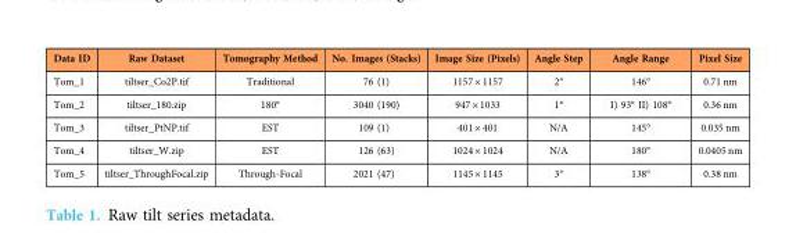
<table><thead><tr><td>Data ID</td><td>Raw Dataset</td><td>Tomography Method</td><td>No. Images (Stacks)</td><td>Image Size (Pixels)</td><td>Angle Step</td><td>Angle Range</td><td>Pixel Size</td></tr></thead><tbody><tr><td>Tom_1</td><td>tiltser_Co2P.tif</td><td>Traditional</td><td>76 (1)</td><td>1157 × 1157</td><td>2°</td><td>146°</td><td>0.71 nm</td></tr><tr><td>Tom_2</td><td>tiltser_180.zip</td><td>180°</td><td>3040 (190)</td><td>947 × 1033</td><td>1°</td><td>I) 93° II) 108°</td><td>0.36 nm</td></tr><tr><td>Tom_3</td><td>tiltser_PtNP.tif</td><td>EST</td><td>109 (1)</td><td>401 × 401</td><td>N/A</td><td>145°</td><td>0.035 nm</td></tr><tr><td>Tom_4</td><td>tiltser_W.zip</td><td>EST</td><td>126 (63)</td><td>1024 × 1024</td><td>N/A</td><td>180°</td><td>0.0405 nm</td></tr><tr><td>Tom_5</td><td>tiltser_ThroughFocal.zip</td><td>Through-Focal</td><td>2021 (47)</td><td>1145 × 1145</td><td>3°</td><td>138°</td><td>0.38 nm</td></tr></tbody></table>